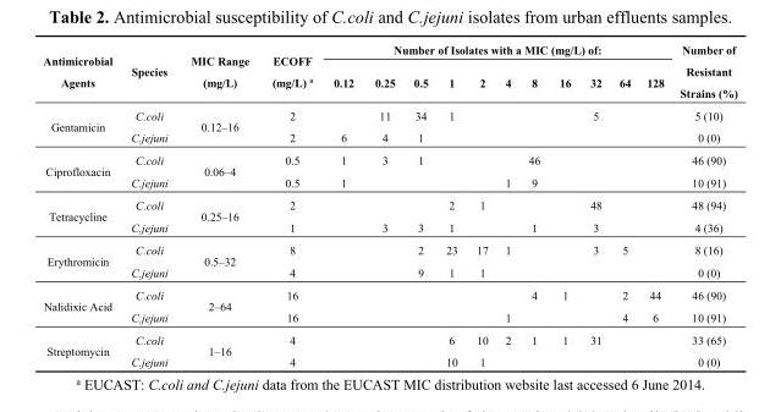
<table><thead><tr><td rowspan="2">Antimicrobial Agents</td><td rowspan="2">Species</td><td rowspan="2">MIC Range (mg/L)</td><td rowspan="2">ECOFF (mg/L) <sup>a</sup></td><td colspan="11">Number of Isolates with a MIC (mg/L) of:</td><td rowspan="2">Number of Resistant Strains (%)</td></tr><tr><td>0.12</td><td>0.25</td><td>0.5</td><td>1</td><td>2</td><td>4</td><td>8</td><td>16</td><td>32</td><td>64</td><td>128</td></tr></thead><tbody><tr><td rowspan="2">Gentamicin</td><td>C.coli</td><td rowspan="2">0.12–16</td><td>2</td><td></td><td>11</td><td>34</td><td>1</td><td></td><td></td><td></td><td></td><td>5</td><td></td><td></td><td>5 (10)</td></tr><tr><td>C.jejuni</td><td>2</td><td>6</td><td>4</td><td>1</td><td></td><td></td><td></td><td></td><td></td><td></td><td></td><td></td><td>0 (0)</td></tr><tr><td rowspan="2">Ciprofloxacin</td><td>C.coli</td><td rowspan="2">0.06–4</td><td>0.5</td><td>1</td><td>3</td><td>1</td><td></td><td></td><td></td><td>46</td><td></td><td></td><td></td><td></td><td>46 (90)</td></tr><tr><td>C.jejuni</td><td>0.5</td><td>1</td><td></td><td></td><td></td><td></td><td>1</td><td>9</td><td></td><td></td><td></td><td></td><td>10 (91)</td></tr><tr><td rowspan="2">Tetracycline</td><td>C.coli</td><td rowspan="2">0.25–16</td><td>2</td><td></td><td></td><td></td><td>2</td><td>1</td><td></td><td></td><td></td><td>48</td><td></td><td></td><td>48 (94)</td></tr><tr><td>C.jejuni</td><td>1</td><td></td><td>3</td><td>3</td><td>1</td><td></td><td></td><td>1</td><td></td><td>3</td><td></td><td></td><td>4 (36)</td></tr><tr><td rowspan="2">Erythromicin</td><td>C.coli</td><td rowspan="2">0.5–32</td><td>8</td><td></td><td></td><td>2</td><td>23</td><td>17</td><td>1</td><td></td><td></td><td>3</td><td>5</td><td></td><td>8 (16)</td></tr><tr><td>C.jejuni</td><td>4</td><td></td><td></td><td>9</td><td>1</td><td>1</td><td></td><td></td><td></td><td></td><td></td><td></td><td>0 (0)</td></tr><tr><td rowspan="2">Nalidixic Acid</td><td>C.coli</td><td rowspan="2">2–64</td><td>16</td><td></td><td></td><td></td><td></td><td></td><td></td><td>4</td><td>1</td><td></td><td>2</td><td>44</td><td>46 (90)</td></tr><tr><td>C.jejuni</td><td>16</td><td></td><td></td><td></td><td></td><td></td><td>1</td><td></td><td></td><td></td><td>4</td><td>6</td><td>10 (91)</td></tr><tr><td rowspan="2">Streptomycin</td><td>C.coli</td><td rowspan="2">1–16</td><td>4</td><td></td><td></td><td></td><td>6</td><td>10</td><td>2</td><td>1</td><td>1</td><td>31</td><td></td><td></td><td>33 (65)</td></tr><tr><td>C.jejuni</td><td>4</td><td></td><td></td><td></td><td>10</td><td>1</td><td></td><td></td><td></td><td></td><td></td><td></td><td>0 (0)</td></tr></tbody></table>